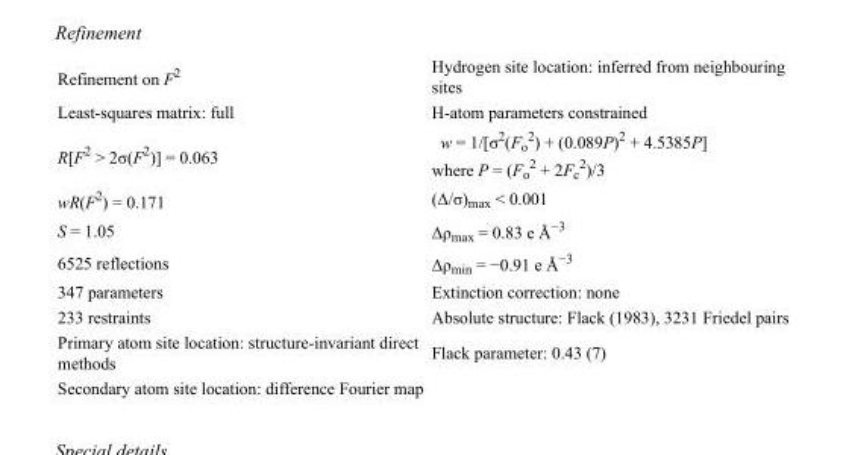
<table><tbody><tr><td>Refinement on F<sup>2</sup></td><td>Hydrogen site location: inferred from neighbouring sites</td></tr><tr><td>Least-squares matrix: full</td><td>H-atom parameters constrained</td></tr><tr><td>R[F<sup>2</sup> &gt; 2σ(F<sup>2</sup>)] = 0.063</td><td>w = 1/[σ<sup>2</sup>(F<sub>o</sub> <sup>2</sup>) + (0.089P)<sup>2</sup> + 4.5385P] where P = (F<sub>o</sub> <sup>2</sup> + 2F<sub>c</sub> <sup>2</sup>)/3</td></tr><tr><td>wR(F<sup>2</sup>) = 0.171</td><td>(Δ/σ)<sub>max</sub> &lt; 0.001</td></tr><tr><td>S = 1.05</td><td>Δρ<sub>max</sub> = 0.83 e Å<sup>−3</sup></td></tr><tr><td>6525 reflections</td><td>Δρ<sub>min</sub> = −0.91 e Å<sup>−3</sup></td></tr><tr><td>347 parameters</td><td>Extinction correction: none</td></tr><tr><td>233 restraints</td><td>Absolute structure: Flack (1983), 3231 Friedel pairs</td></tr><tr><td>Primary atom site location: structure-invariant direct methods</td><td>Flack parameter: 0.43 (7)</td></tr><tr><td>Secondary atom site location: difference Fourier map</td><td></td></tr></tbody></table>